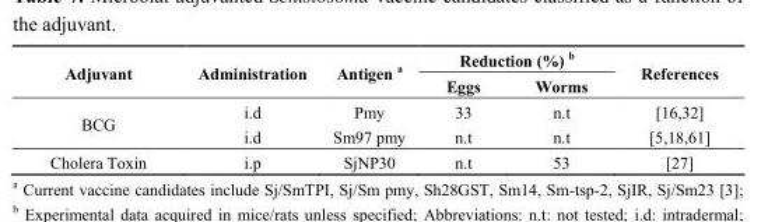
<table><thead><tr><td rowspan="2">Adjuvant</td><td rowspan="2">Administration</td><td rowspan="2">Antigen <sup>a</sup></td><td colspan="2">Reduction (%) <sup>b</sup></td><td rowspan="2">References</td></tr><tr><td>Eggs</td><td>Worms</td></tr></thead><tbody><tr><td rowspan="2">BCG</td><td>i.d</td><td>Pmy</td><td>33</td><td>n.t</td><td>[16,32]</td></tr><tr><td>i.d</td><td>Sm97 pmy</td><td>n.t</td><td>n.t</td><td>[5,18,61]</td></tr><tr><td>Cholera Toxin</td><td>i.p</td><td>SjNP30</td><td>n.t</td><td>53</td><td>[27]</td></tr></tbody></table>